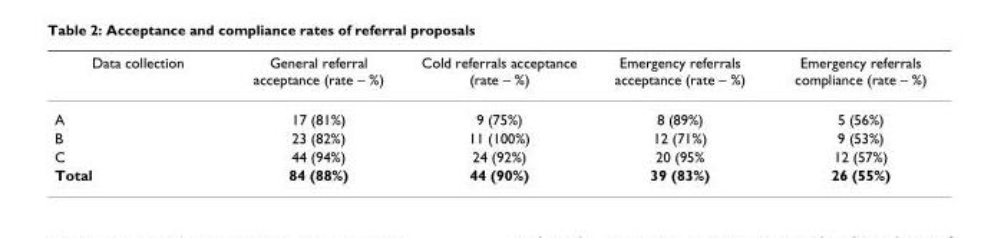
<table><thead><tr><td>Data collection</td><td>General referral acceptance (rate – %)</td><td>Cold referrals acceptance (rate – %)</td><td>Emergency referrals acceptance (rate – %)</td><td>Emergency referrals compliance (rate – %)</td></tr></thead><tbody><tr><td>A</td><td>17 (81%)</td><td>9 (75%)</td><td>8 (89%)</td><td>5 (56%)</td></tr><tr><td>B</td><td>23 (82%)</td><td>11 (100%)</td><td>12 (71%)</td><td>9 (53%)</td></tr><tr><td>C</td><td>44 (94%)</td><td>24 (92%)</td><td>20 (95%</td><td>12 (57%)</td></tr><tr><td>Total</td><td>84 (88%)</td><td>44 (90%)</td><td>39 (83%)</td><td>26 (55%)</td></tr></tbody></table>